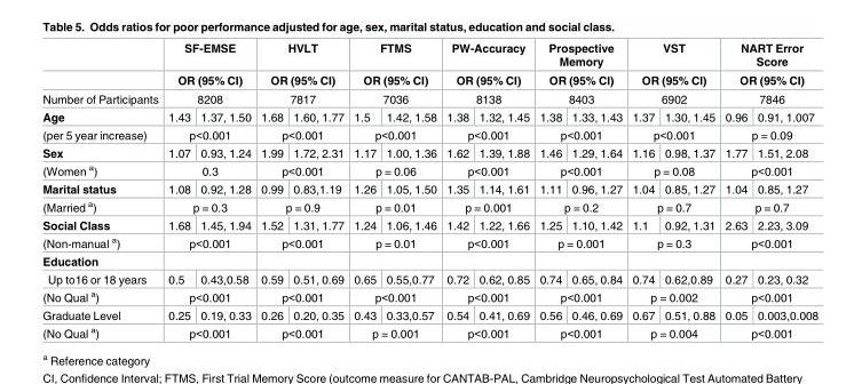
<table><thead><tr><td rowspan="4">Number of Participants Age</td><td rowspan="3" colspan="2">SF-EMSE OR (95% CI) 8208</td><td rowspan="3" colspan="2">HVLT OR (95% CI) 7817</td><td rowspan="3" colspan="2">FTMS OR (95% CI) 7036</td><td rowspan="3" colspan="2">PW-Accuracy OR (95% CI) 8138</td><td rowspan="3" colspan="2">Prospective Memory OR (95% CI) 8403</td><td rowspan="3" colspan="2">VST OR (95% CI) 6902</td><td rowspan="3" colspan="2">NART Error Score OR (95% CI) 7846</td></tr><tr></tr><tr></tr><tr><td>1.43</td><td>1.37, 1.50</td><td>1.68</td><td>1.60, 1.77</td><td>1.5</td><td>1.42, 1.58</td><td>1.38</td><td>1.32, 1.45</td><td>1.38</td><td>1.33, 1.43</td><td>1.37</td><td>1.30, 1.45</td><td>0.96</td><td>0.91, 1.007</td></tr></thead><tbody><tr><td>(per 5 year increase)</td><td colspan="2">p&lt;0.001</td><td colspan="2">p&lt;0.001</td><td colspan="2">p&lt;0.001</td><td colspan="2">p&lt;0.001</td><td colspan="2">p&lt;0.001</td><td colspan="2">p&lt;0.001</td><td colspan="2">p = 0.09</td></tr><tr><td>Sex</td><td>1.07</td><td>0.93, 1.24</td><td>1.99</td><td>1.72, 2.31</td><td>1.17</td><td>1.00, 1.36</td><td>1.62</td><td>1.39, 1.88</td><td>1.46</td><td>1.29, 1.64</td><td>1.16</td><td>0.98, 1.37</td><td>1.77</td><td>1.51, 2.08</td></tr><tr><td>(Women <sup>a</sup>)</td><td colspan="2">0.3</td><td colspan="2">p&lt;0.001</td><td colspan="2">p = 0.06</td><td colspan="2">p&lt;0.001</td><td colspan="2">p&lt;0.001</td><td colspan="2">p = 0.08</td><td colspan="2">p&lt;0.001</td></tr><tr><td>Marital status</td><td>1.08</td><td>0.92, 1.28</td><td>0.99</td><td>0.83,1.19</td><td>1.26</td><td>1.05, 1.50</td><td>1.35</td><td>1.14, 1.61</td><td>1.11</td><td>0.96, 1.27</td><td>1.04</td><td>0.85, 1.27</td><td>1.04</td><td>0.85, 1.27</td></tr><tr><td>(Married <sup>a</sup>)</td><td colspan="2">p = 0.3</td><td colspan="2">p = 0.9</td><td colspan="2">p = 0.01</td><td colspan="2">p = 0.001</td><td colspan="2">p = 0.2</td><td colspan="2">p = 0.7</td><td colspan="2">p = 0.7</td></tr><tr><td>Social Class</td><td>1.68</td><td>1.45, 1.94</td><td>1.52</td><td>1.31, 1.77</td><td>1.24</td><td>1.06, 1.46</td><td>1.42</td><td>1.22, 1.66</td><td>1.25</td><td>1.10, 1.42</td><td>1.1</td><td>0.92, 1.31</td><td>2.63</td><td>2.23, 3.09</td></tr><tr><td>(Non-manual <sup>a</sup>)</td><td colspan="2">p&lt;0.001</td><td colspan="2">p&lt;0.001</td><td colspan="2">p = 0.01</td><td colspan="2">p&lt;0.001</td><td colspan="2">p = 0.001</td><td colspan="2">p = 0.3</td><td colspan="2">p&lt;0.001</td></tr><tr><td colspan="15">Education</td></tr><tr><td>Up to16 or 18 years</td><td>0.5</td><td>0.43,0.58</td><td>0.59</td><td>0.51, 0.69</td><td>0.65</td><td>0.55,0.77</td><td>0.72</td><td>0.62, 0.85</td><td>0.74</td><td>0.65, 0.84</td><td>0.74</td><td>0.62,0.89</td><td>0.27</td><td>0.23, 0.32</td></tr><tr><td>(No Qual <sup>a</sup>)</td><td colspan="2">p&lt;0.001</td><td colspan="2">p&lt;0.001</td><td colspan="2">p&lt;0.001</td><td colspan="2">p&lt;0.001</td><td colspan="2">p&lt;0.001</td><td colspan="2">p = 0.002</td><td colspan="2">p&lt;0.001</td></tr><tr><td>Graduate Level</td><td>0.25</td><td>0.19, 0.33</td><td>0.26</td><td>0.20, 0.35</td><td>0.43</td><td>0.33,0.57</td><td>0.54</td><td>0.41, 0.69</td><td>0.56</td><td>0.46, 0.69</td><td>0.67</td><td>0.51, 0.88</td><td>0.05</td><td>0.003,0.008</td></tr><tr><td>(No Qual <sup>a</sup>)</td><td colspan="2">p&lt;0.001</td><td colspan="2">p&lt;0.001</td><td colspan="2">p = 0.001</td><td colspan="2">p&lt;0.001</td><td colspan="2">p&lt;0.001</td><td colspan="2">p = 0.004</td><td colspan="2">p&lt;0.001</td></tr></tbody></table>